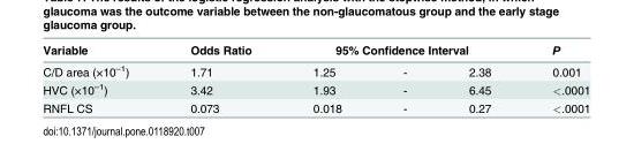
<table><thead><tr><td rowspan="2">Variable C/D area (×10<sup>–1</sup>)</td><td rowspan="2">Odds Ratio 1.71</td><td colspan="3">95% Confidence Interval</td><td rowspan="2">P 0.001</td></tr><tr><td>1.25</td><td>-</td><td>2.38</td></tr></thead><tbody><tr><td>HVC (×10<sup>–1</sup>)</td><td>3.42</td><td>1.93</td><td>-</td><td>6.45</td><td>&lt;.0001</td></tr><tr><td>RNFL CS</td><td>0.073</td><td>0.018</td><td>-</td><td>0.27</td><td>&lt;.0001</td></tr></tbody></table>